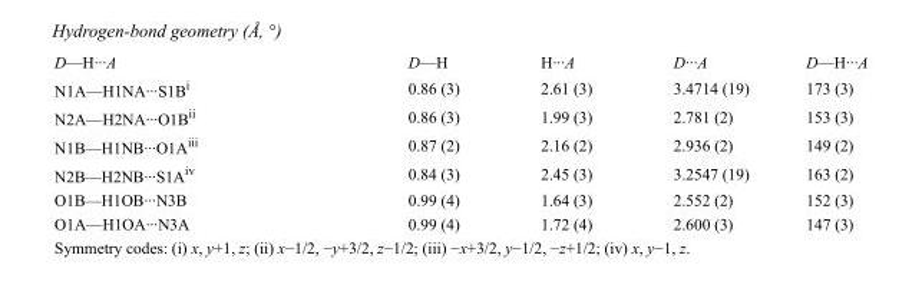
<table><tbody><tr><td>D—H···A</td><td>D—H</td><td>H···A</td><td>D···A</td><td>D—H···A</td></tr><tr><td>N1A—H1NA···S1B<sup>i</sup></td><td>0.86 (3)</td><td>2.61 (3)</td><td>3.4714 (19)</td><td>173 (3)</td></tr><tr><td>N2A—H2NA···O1B<sup>ii</sup></td><td>0.86 (3)</td><td>1.99 (3)</td><td>2.781 (2)</td><td>153 (3)</td></tr><tr><td>N1B—H1NB···O1A<sup>iii</sup></td><td>0.87 (2)</td><td>2.16 (2)</td><td>2.936 (2)</td><td>149 (2)</td></tr><tr><td>N2B—H2NB···S1A<sup>iv</sup></td><td>0.84 (3)</td><td>2.45 (3)</td><td>3.2547 (19)</td><td>163 (2)</td></tr><tr><td>O1B—H1OB···N3B</td><td>0.99 (4)</td><td>1.64 (3)</td><td>2.552 (2)</td><td>152 (3)</td></tr><tr><td>O1A—H1OA···N3A</td><td>0.99 (4)</td><td>1.72 (4)</td><td>2.600 (3)</td><td>147 (3)</td></tr></tbody></table>